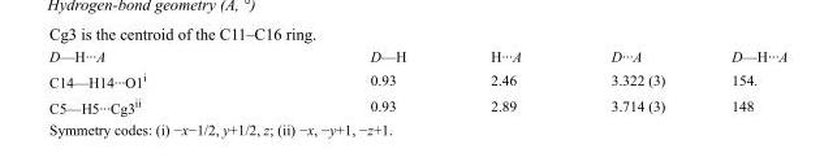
<table><tbody><tr><td>D—H···A</td><td>D—H</td><td>H···A</td><td>D···A</td><td>D—H···A</td></tr><tr><td>C14—H14···O1<sup>i</sup></td><td>0.93</td><td>2.46</td><td>3.322 (3)</td><td>154.</td></tr><tr><td>C5—H5···Cg3<sup>ii</sup></td><td>0.93</td><td>2.89</td><td>3.714 (3)</td><td>148</td></tr></tbody></table>